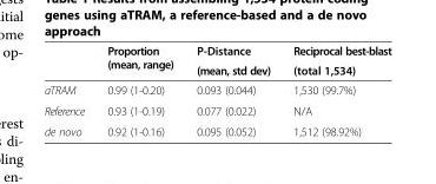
<table><thead><tr><td rowspan="2"></td><td rowspan="2">Proportion (mean, range)</td><td rowspan="2">P-Distance (mean, std dev)</td><td rowspan="2">Reciprocal best-blast (total 1,534)</td></tr><tr></tr></thead><tbody><tr><td>aTRAM</td><td>0.99 (1-0.20)</td><td>0.093 (0.044)</td><td>1,530 (99.7%)</td></tr><tr><td>Reference</td><td>0.93 (1-0.19)</td><td>0.077 (0.022)</td><td>N/A</td></tr><tr><td>de novo</td><td>0.92 (1-0.16)</td><td>0.095 (0.052)</td><td>1,512 (98.92%)</td></tr></tbody></table>